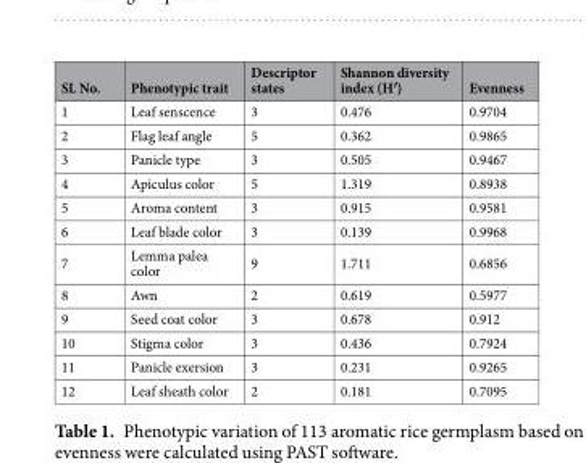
<table><thead><tr><td>SL No.</td><td>Phenotypic trait</td><td>Descriptor states</td><td>Shannon diversity index (H′)</td><td>Evenness</td></tr></thead><tbody><tr><td>1</td><td>Leaf senscence</td><td>3</td><td>0.476</td><td>0.9704</td></tr><tr><td>2</td><td>Flag leaf angle</td><td>5</td><td>0.362</td><td>0.9865</td></tr><tr><td>3</td><td>Panicle type</td><td>3</td><td>0.505</td><td>0.9467</td></tr><tr><td>4</td><td>Apiculus color</td><td>5</td><td>1.319</td><td>0.8938</td></tr><tr><td>5</td><td>Aroma content</td><td>3</td><td>0.915</td><td>0.9581</td></tr><tr><td>6</td><td>Leaf blade color</td><td>3</td><td>0.139</td><td>0.9968</td></tr><tr><td>7</td><td>Lemma palea color</td><td>9</td><td>1.711</td><td>0.6856</td></tr><tr><td>8</td><td>Awn</td><td>2</td><td>0.619</td><td>0.5977</td></tr><tr><td>9</td><td>Seed coat color</td><td>3</td><td>0.678</td><td>0.912</td></tr><tr><td>10</td><td>Stigma color</td><td>3</td><td>0.436</td><td>0.7924</td></tr><tr><td>11</td><td>Panicle exersion</td><td>3</td><td>0.231</td><td>0.9265</td></tr><tr><td>12</td><td>Leaf sheath color</td><td>2</td><td>0.181</td><td>0.7095</td></tr></tbody></table>